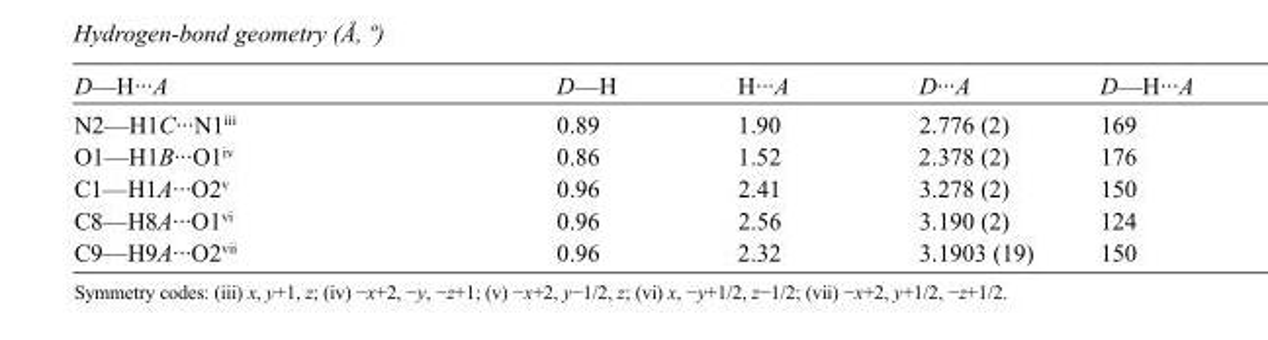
<table><tbody><tr><td>D—H···A</td><td>D—H</td><td>H···A</td><td>D···A</td><td>D—H···A</td></tr><tr><td>N2—H1C···N1<sup>iii</sup></td><td>0.89</td><td>1.90</td><td>2.776 (2)</td><td>169</td></tr><tr><td>O1—H1B···O1<sup>iv</sup></td><td>0.86</td><td>1.52</td><td>2.378 (2)</td><td>176</td></tr><tr><td>C1—H1A···O2<sup>v</sup></td><td>0.96</td><td>2.41</td><td>3.278 (2)</td><td>150</td></tr><tr><td>C8—H8A···O1<sup>vi</sup></td><td>0.96</td><td>2.56</td><td>3.190 (2)</td><td>124</td></tr><tr><td>C9—H9A···O2<sup>vii</sup></td><td>0.96</td><td>2.32</td><td>3.1903 (19)</td><td>150</td></tr></tbody></table>